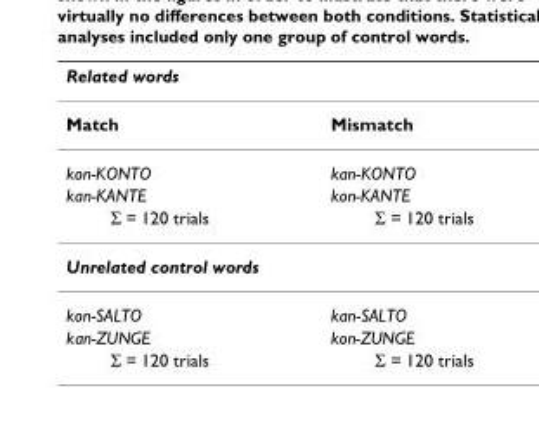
<table><thead><tr><td colspan="2">Related words</td></tr><tr><td>Match</td><td>Mismatch</td></tr></thead><tbody><tr><td>kon-KONTO</td><td>kan-KONTO</td></tr><tr><td>kan-KANTE</td><td>kon-KANTE</td></tr><tr><td>Σ = 120 trials</td><td>Σ = 120 trials</td></tr><tr><td colspan="2">Unrelated control words</td></tr><tr><td>kon-SALTO</td><td>kan-SALTO</td></tr><tr><td>kan-ZUNGE</td><td>kon-ZUNGE</td></tr><tr><td>Σ = 120 trials</td><td>Σ = 120 trials</td></tr></tbody></table>